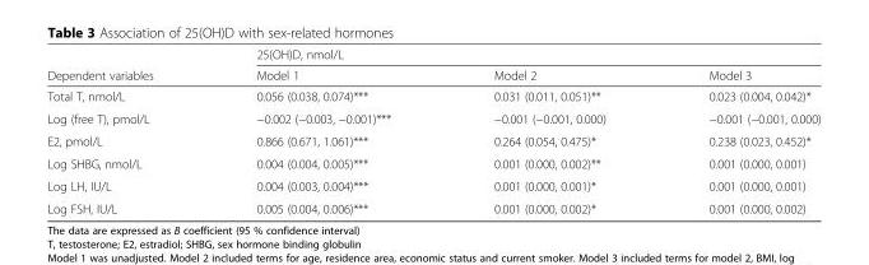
<table><thead><tr><td rowspan="2">Dependent variables</td><td colspan="3">25(OH)D, nmol/L</td></tr><tr><td>Model 1</td><td>Model 2</td><td>Model 3</td></tr></thead><tbody><tr><td>Total T, nmol/L</td><td>0.056 (0.038, 0.074)***</td><td>0.031 (0.011, 0.051)**</td><td>0.023 (0.004, 0.042)*</td></tr><tr><td>Log (free T), pmol/L</td><td>−0.002 (−0.003, −0.001)***</td><td>−0.001 (−0.001, 0.000)</td><td>−0.001 (−0.001, 0.000)</td></tr><tr><td>E2, pmol/L</td><td>0.866 (0.671, 1.061)***</td><td>0.264 (0.054, 0.475)*</td><td>0.238 (0.023, 0.452)*</td></tr><tr><td>Log SHBG, nmol/L</td><td>0.004 (0.004, 0.005)***</td><td>0.001 (0.000, 0.002)**</td><td>0.001 (0.000, 0.001)</td></tr><tr><td>Log LH, IU/L</td><td>0.004 (0.003, 0.004)***</td><td>0.001 (0.000, 0.001)*</td><td>0.001 (0.000, 0.001)</td></tr><tr><td>Log FSH, IU/L</td><td>0.005 (0.004, 0.006)***</td><td>0.001 (0.000, 0.002)*</td><td>0.001 (0.000, 0.002)</td></tr></tbody></table>